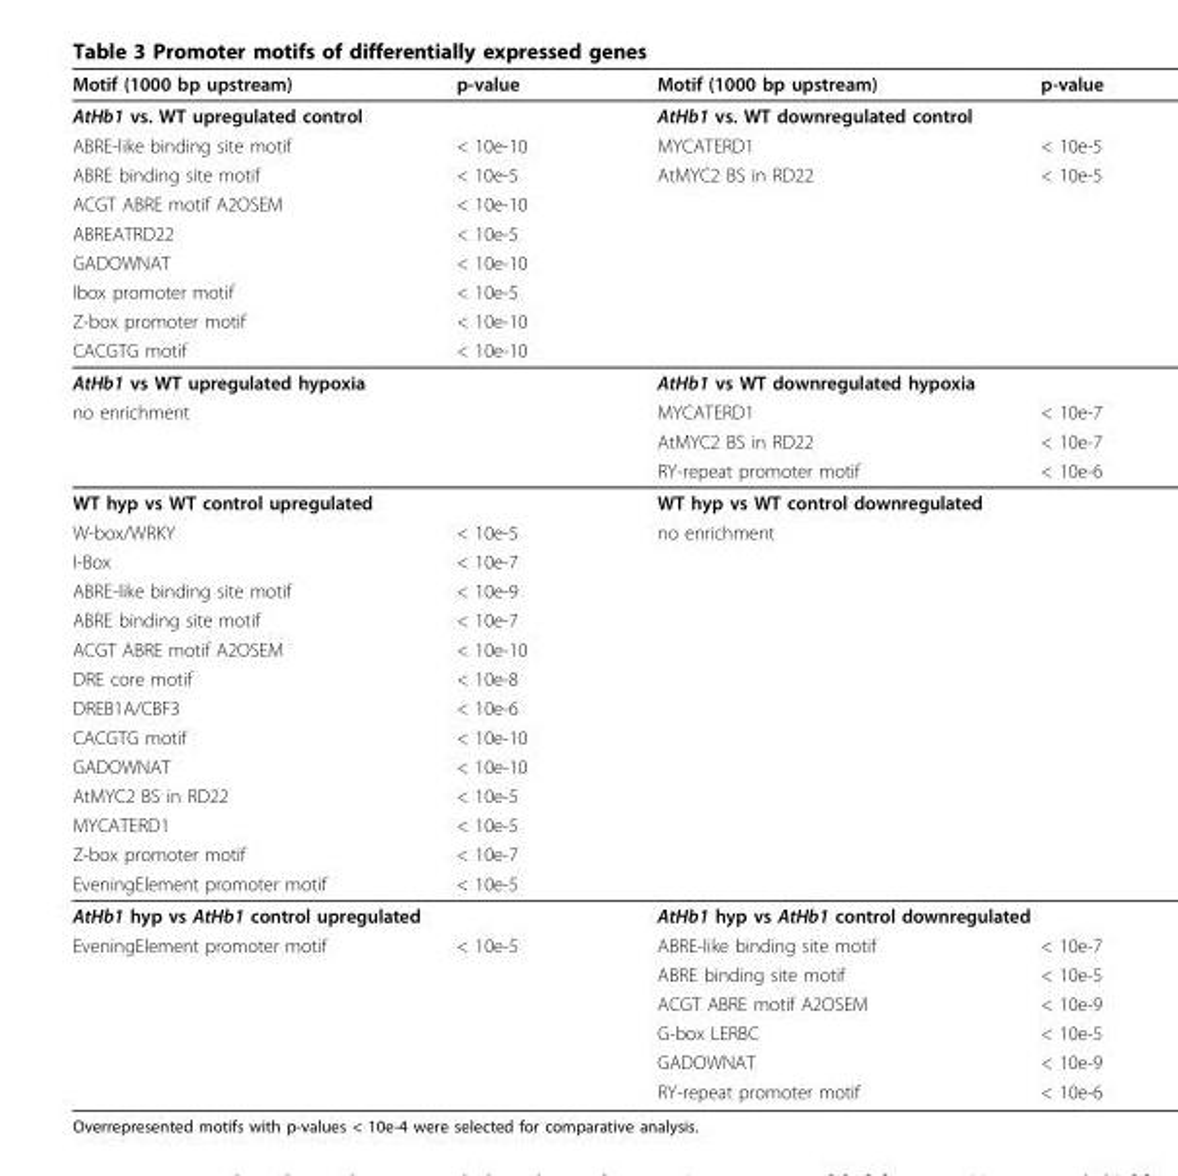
<table><thead><tr><td>Motif (1000 bp upstream)</td><td>p-value</td><td>Motif (1000 bp upstream)</td><td>p-value</td></tr></thead><tbody><tr><td colspan="2">AtHb1 vs. WT upregulated control</td><td colspan="2">AtHb1 vs. WT downregulated control</td></tr><tr><td>ABRE-like binding site motif</td><td>&lt; 10e-10</td><td>MYCATERD1</td><td>&lt; 10e-5</td></tr><tr><td>ABRE binding site motif</td><td>&lt; 10e-5</td><td>AtMYC2 BS in RD22</td><td>&lt; 10e-5</td></tr><tr><td>ACGT ABRE motif A2OSEM</td><td>&lt; 10e-10</td><td></td><td></td></tr><tr><td>ABREATRD22</td><td>&lt; 10e-5</td><td></td><td></td></tr><tr><td>GADOWNAT</td><td>&lt; 10e-10</td><td></td><td></td></tr><tr><td>Ibox promoter motif</td><td>&lt; 10e-5</td><td></td><td></td></tr><tr><td>Z-box promoter motif</td><td>&lt; 10e-10</td><td></td><td></td></tr><tr><td>CACGTG motif</td><td>&lt; 10e-10</td><td></td><td></td></tr><tr><td colspan="2">AtHb1 vs WT upregulated hypoxia</td><td colspan="2">AtHb1 vs WT downregulated hypoxia</td></tr><tr><td rowspan="3">no enrichment</td><td></td><td>MYCATERD1</td><td>&lt; 10e-7</td></tr><tr><td></td><td>AtMYC2 BS in RD22</td><td>&lt; 10e-7</td></tr><tr><td></td><td>RY-repeat promoter motif</td><td>&lt; 10e-6</td></tr><tr><td colspan="2">WT hyp vs WT control upregulated</td><td colspan="2">WT hyp vs WT control downregulated</td></tr><tr><td>W-box/WRKY</td><td>&lt; 10e-5</td><td>no enrichment</td><td></td></tr><tr><td>I-Box</td><td>&lt; 10e-7</td><td></td><td></td></tr><tr><td>ABRE-like binding site motif</td><td>&lt; 10e-9</td><td></td><td></td></tr><tr><td>ABRE binding site motif</td><td>&lt; 10e-7</td><td></td><td></td></tr><tr><td>ACGT ABRE motif A2OSEM</td><td>&lt; 10e-10</td><td></td><td></td></tr><tr><td>DRE core motif</td><td>&lt; 10e-8</td><td></td><td></td></tr><tr><td>DREB1A/CBF3</td><td>&lt; 10e-6</td><td></td><td></td></tr><tr><td>CACGTG motif</td><td>&lt; 10e-10</td><td></td><td></td></tr><tr><td>GADOWNAT</td><td>&lt; 10e-10</td><td></td><td></td></tr><tr><td>AtMYC2 BS in RD22</td><td>&lt; 10e-5</td><td></td><td></td></tr><tr><td>MYCATERD1</td><td>&lt; 10e-5</td><td></td><td></td></tr><tr><td>Z-box promoter motif</td><td>&lt; 10e-7</td><td></td><td></td></tr><tr><td>EveningElement promoter motif</td><td>&lt; 10e-5</td><td></td><td></td></tr><tr><td colspan="2">AtHb1 hyp vs AtHb1 control upregulated</td><td colspan="2">AtHb1 hyp vs AtHb1 control downregulated</td></tr><tr><td rowspan="6">EveningElement promoter motif</td><td>&lt; 10e-5</td><td>ABRE-like binding site motif</td><td>&lt; 10e-7</td></tr><tr><td></td><td>ABRE binding site motif</td><td>&lt; 10e-5</td></tr><tr><td></td><td>ACGT ABRE motif A2OSEM</td><td>&lt; 10e-9</td></tr><tr><td></td><td>G-box LERBC</td><td>&lt; 10e-5</td></tr><tr><td></td><td>GADOWNAT</td><td>&lt; 10e-9</td></tr><tr><td></td><td>RY-repeat promoter motif</td><td>&lt; 10e-6</td></tr></tbody></table>